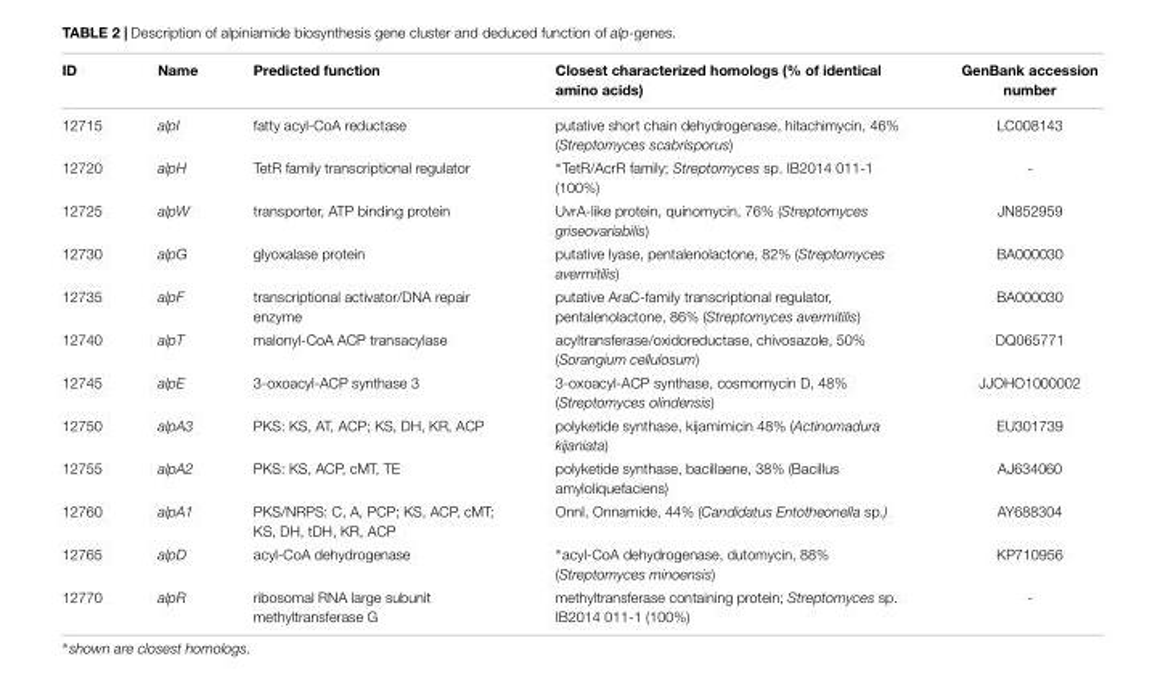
<table><thead><tr><td>ID</td><td>Name</td><td>Predicted function</td><td>Closest characterized homologs (% of identical amino acids)</td><td>GenBank accession number</td></tr></thead><tbody><tr><td>12715</td><td>alpI</td><td>fatty acyl-CoA reductase</td><td>putative short chain dehydrogenase, hitachimycin, 46% (Streptomyces scabrisporus)</td><td>LC008143</td></tr><tr><td>12720</td><td>alpH</td><td>TetR family transcriptional regulator</td><td>∗TetR/AcrR family; Streptomyces sp. IB2014 011-1 (100%)</td><td>-</td></tr><tr><td>12725</td><td>alpW</td><td>transporter, ATP binding protein</td><td>UvrA-like protein, quinomycin, 76% (Streptomyces griseovariabilis)</td><td>JN852959</td></tr><tr><td>12730</td><td>alpG</td><td>glyoxalase protein</td><td>putative lyase, pentalenolactone, 82% (Streptomyces avermitilis)</td><td>BA000030</td></tr><tr><td>12735</td><td>alpF</td><td>transcriptional activator/DNA repair enzyme</td><td>putative AraC-family transcriptional regulator, pentalenolactone, 86% (Streptomyces avermitilis)</td><td>BA000030</td></tr><tr><td>12740</td><td>alpT</td><td>malonyl-CoA ACP transacylase</td><td>acyltransferase/oxidoreductase, chivosazole, 50% (Sorangium cellulosum)</td><td>DQ065771</td></tr><tr><td>12745</td><td>alpE</td><td>3-oxoacyl-ACP synthase 3</td><td>3-oxoacyl-ACP synthase, cosmomycin D, 48% (Streptomyces olindensis)</td><td>JJOHO1000002</td></tr><tr><td>12750</td><td>alpA3</td><td>PKS: KS, AT, ACP; KS, DH, KR, ACP</td><td>polyketide synthase, kijamimicin 48% (Actinomadura kijaniata)</td><td>EU301739</td></tr><tr><td>12755</td><td>alpA2</td><td>PKS: KS, ACP, cMT, TE</td><td>polyketide synthase, bacillaene, 38% (Bacillus amyloliquefaciens)</td><td>AJ634060</td></tr><tr><td>12760</td><td>alpA1</td><td>PKS/NRPS: C, A, PCP; KS, ACP, cMT; KS, DH, tDH, KR, ACP</td><td>OnnI, Onnamide, 44% (Candidatus Entotheonella sp.)</td><td>AY688304</td></tr><tr><td>12765</td><td>alpD</td><td>acyl-CoA dehydrogenase</td><td>∗acyl-CoA dehydrogenase, dutomycin, 88% (Streptomyces minoensis)</td><td>KP710956</td></tr><tr><td>12770</td><td>alpR</td><td>ribosomal RNA large subunit methyltransferase G</td><td>methyltransferase containing protein; Streptomyces sp. IB2014 011-1 (100%)</td><td>-</td></tr></tbody></table>